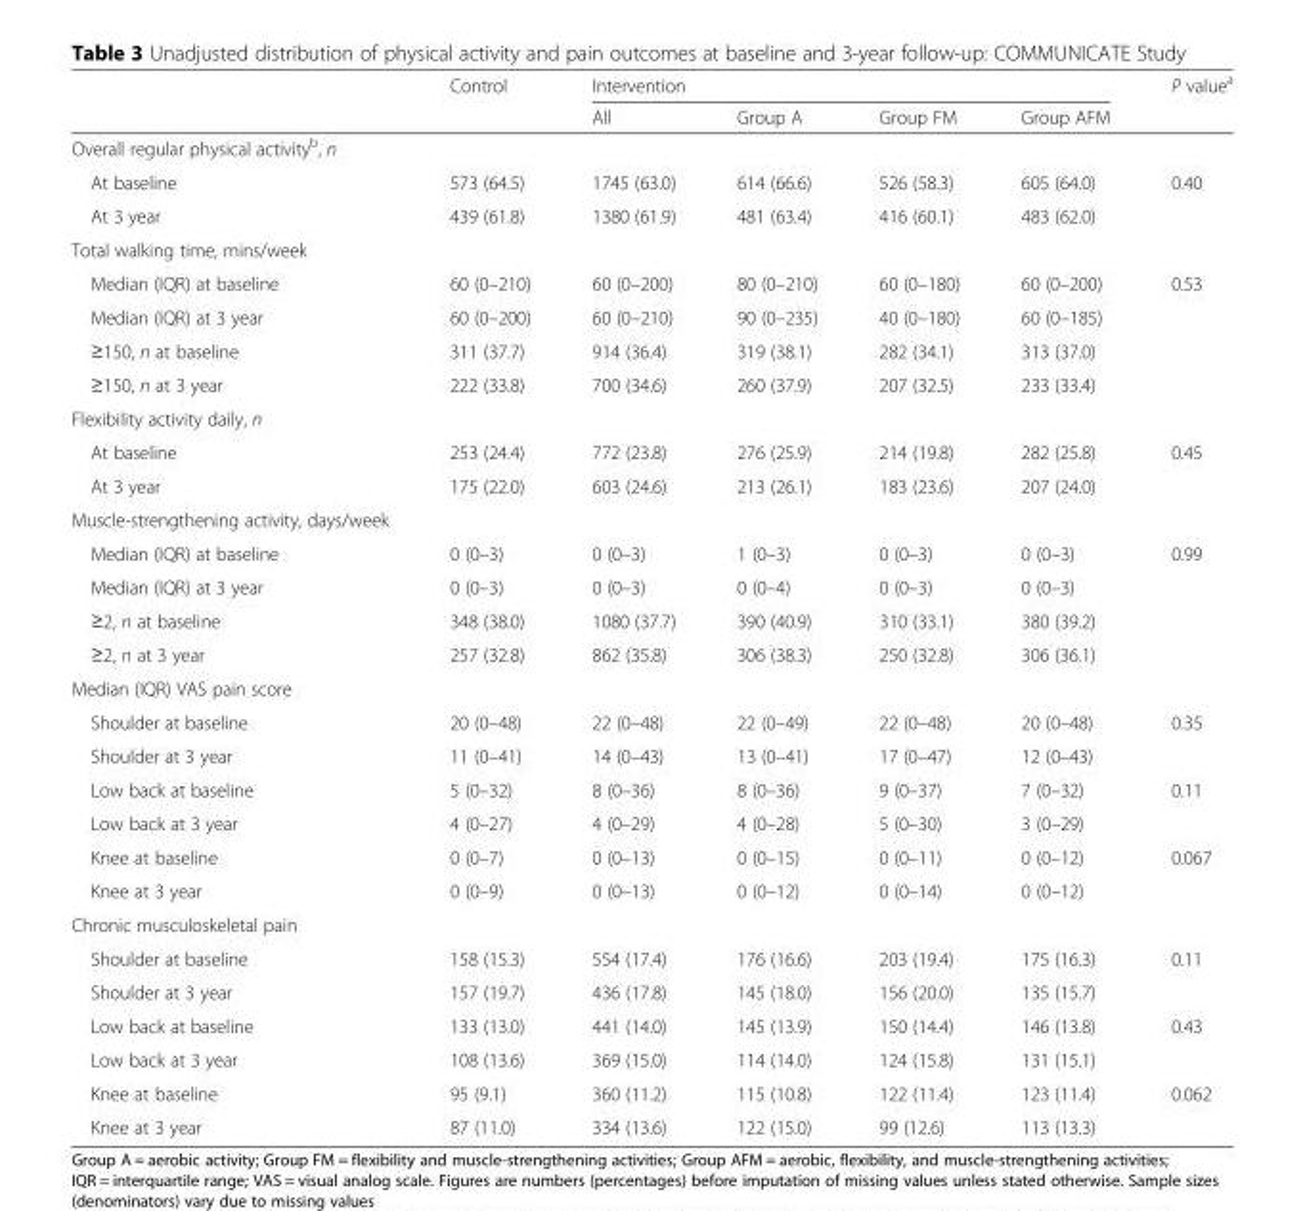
<table><thead><tr><td rowspan="2"></td><td rowspan="2">Control</td><td colspan="4">Intervention</td><td rowspan="2">P value<sup>a</sup></td></tr><tr><td>All</td><td>Group A</td><td>Group FM</td><td>Group AFM</td></tr></thead><tbody><tr><td colspan="7">Overall regular physical activity<sup>b</sup>, n</td></tr><tr><td>At baseline</td><td>573 (64.5)</td><td>1745 (63.0)</td><td>614 (66.6)</td><td>526 (58.3)</td><td>605 (64.0)</td><td>0.40</td></tr><tr><td>At 3 year</td><td>439 (61.8)</td><td>1380 (61.9)</td><td>481 (63.4)</td><td>416 (60.1)</td><td>483 (62.0)</td><td></td></tr><tr><td colspan="7">Total walking time, mins/week</td></tr><tr><td>Median (IQR) at baseline</td><td>60 (0–210)</td><td>60 (0–200)</td><td>80 (0–210)</td><td>60 (0–180)</td><td>60 (0–200)</td><td>0.53</td></tr><tr><td>Median (IQR) at 3 year</td><td>60 (0–200)</td><td>60 (0–210)</td><td>90 (0–235)</td><td>40 (0–180)</td><td>60 (0–185)</td><td></td></tr><tr><td>≥150, n at baseline</td><td>311 (37.7)</td><td>914 (36.4)</td><td>319 (38.1)</td><td>282 (34.1)</td><td>313 (37.0)</td><td></td></tr><tr><td>≥150, n at 3 year</td><td>222 (33.8)</td><td>700 (34.6)</td><td>260 (37.9)</td><td>207 (32.5)</td><td>233 (33.4)</td><td></td></tr><tr><td colspan="7">Flexibility activity daily, n</td></tr><tr><td>At baseline</td><td>253 (24.4)</td><td>772 (23.8)</td><td>276 (25.9)</td><td>214 (19.8)</td><td>282 (25.8)</td><td>0.45</td></tr><tr><td>At 3 year</td><td>175 (22.0)</td><td>603 (24.6)</td><td>213 (26.1)</td><td>183 (23.6)</td><td>207 (24.0)</td><td></td></tr><tr><td colspan="7">Muscle-strengthening activity, days/week</td></tr><tr><td>Median (IQR) at baseline</td><td>0 (0–3)</td><td>0 (0–3)</td><td>1 (0–3)</td><td>0 (0–3)</td><td>0 (0–3)</td><td>0.99</td></tr><tr><td>Median (IQR) at 3 year</td><td>0 (0–3)</td><td>0 (0–3)</td><td>0 (0–4)</td><td>0 (0–3)</td><td>0 (0–3)</td><td></td></tr><tr><td>≥2, n at baseline</td><td>348 (38.0)</td><td>1080 (37.7)</td><td>390 (40.9)</td><td>310 (33.1)</td><td>380 (39.2)</td><td></td></tr><tr><td>≥2, n at 3 year</td><td>257 (32.8)</td><td>862 (35.8)</td><td>306 (38.3)</td><td>250 (32.8)</td><td>306 (36.1)</td><td></td></tr><tr><td colspan="7">Median (IQR) VAS pain score</td></tr><tr><td>Shoulder at baseline</td><td>20 (0–48)</td><td>22 (0–48)</td><td>22 (0–49)</td><td>22 (0–48)</td><td>20 (0–48)</td><td>0.35</td></tr><tr><td>Shoulder at 3 year</td><td>11 (0–41)</td><td>14 (0–43)</td><td>13 (0–41)</td><td>17 (0–47)</td><td>12 (0–43)</td><td></td></tr><tr><td>Low back at baseline</td><td>5 (0–32)</td><td>8 (0–36)</td><td>8 (0–36)</td><td>9 (0–37)</td><td>7 (0–32)</td><td>0.11</td></tr><tr><td>Low back at 3 year</td><td>4 (0–27)</td><td>4 (0–29)</td><td>4 (0–28)</td><td>5 (0–30)</td><td>3 (0–29)</td><td></td></tr><tr><td>Knee at baseline</td><td>0 (0–7)</td><td>0 (0–13)</td><td>0 (0–15)</td><td>0 (0–11)</td><td>0 (0–12)</td><td>0.067</td></tr><tr><td>Knee at 3 year</td><td>0 (0–9)</td><td>0 (0–13)</td><td>0 (0–12)</td><td>0 (0–14)</td><td>0 (0–12)</td><td></td></tr><tr><td colspan="7">Chronic musculoskeletal pain</td></tr><tr><td>Shoulder at baseline</td><td>158 (15.3)</td><td>554 (17.4)</td><td>176 (16.6)</td><td>203 (19.4)</td><td>175 (16.3)</td><td>0.11</td></tr><tr><td>Shoulder at 3 year</td><td>157 (19.7)</td><td>436 (17.8)</td><td>145 (18.0)</td><td>156 (20.0)</td><td>135 (15.7)</td><td></td></tr><tr><td>Low back at baseline</td><td>133 (13.0)</td><td>441 (14.0)</td><td>145 (13.9)</td><td>150 (14.4)</td><td>146 (13.8)</td><td>0.43</td></tr><tr><td>Low back at 3 year</td><td>108 (13.6)</td><td>369 (15.0)</td><td>114 (14.0)</td><td>124 (15.8)</td><td>131 (15.1)</td><td></td></tr><tr><td>Knee at baseline</td><td>95 (9.1)</td><td>360 (11.2)</td><td>115 (10.8)</td><td>122 (11.4)</td><td>123 (11.4)</td><td>0.062</td></tr><tr><td>Knee at 3 year</td><td>87 (11.0)</td><td>334 (13.6)</td><td>122 (15.0)</td><td>99 (12.6)</td><td>113 (13.3)</td><td></td></tr></tbody></table>